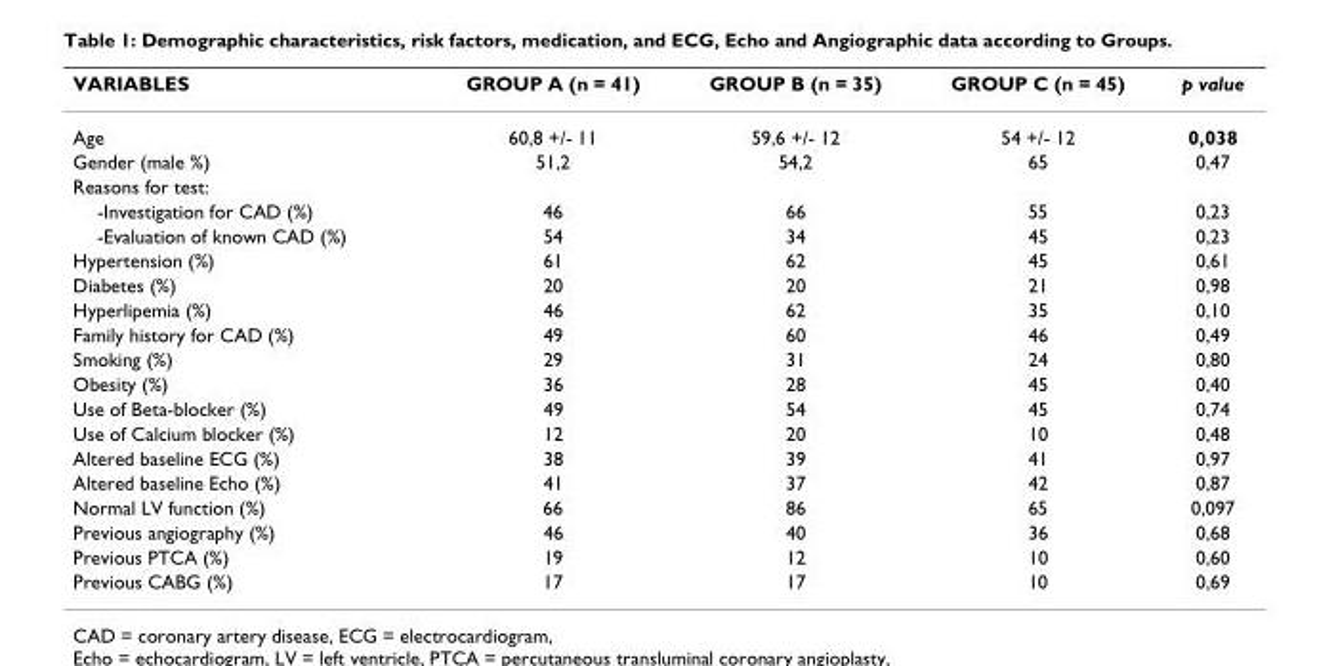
<table><thead><tr><td>VARIABLES</td><td>GROUP A (n = 41)</td><td>GROUP B (n = 35)</td><td>GROUP C (n = 45)</td><td>p value</td></tr></thead><tbody><tr><td>Age</td><td>60,8 +/- 11</td><td>59,6 +/- 12</td><td>54 +/- 12</td><td>0,038</td></tr><tr><td>Gender (male %)</td><td>51,2</td><td>54,2</td><td>65</td><td>0,47</td></tr><tr><td colspan="5">Reasons for test:</td></tr><tr><td>-Investigation for CAD (%)</td><td>46</td><td>66</td><td>55</td><td>0,23</td></tr><tr><td>-Evaluation of known CAD (%)</td><td>54</td><td>34</td><td>45</td><td>0,23</td></tr><tr><td>Hypertension (%)</td><td>61</td><td>62</td><td>45</td><td>0,61</td></tr><tr><td>Diabetes (%)</td><td>20</td><td>20</td><td>21</td><td>0,98</td></tr><tr><td>Hyperlipemia (%)</td><td>46</td><td>62</td><td>35</td><td>0,10</td></tr><tr><td>Family history for CAD (%)</td><td>49</td><td>60</td><td>46</td><td>0,49</td></tr><tr><td>Smoking (%)</td><td>29</td><td>31</td><td>24</td><td>0,80</td></tr><tr><td>Obesity (%)</td><td>36</td><td>28</td><td>45</td><td>0,40</td></tr><tr><td>Use of Beta-blocker (%)</td><td>49</td><td>54</td><td>45</td><td>0,74</td></tr><tr><td>Use of Calcium blocker (%)</td><td>12</td><td>20</td><td>10</td><td>0,48</td></tr><tr><td>Altered baseline ECG (%)</td><td>38</td><td>39</td><td>41</td><td>0,97</td></tr><tr><td>Altered baseline Echo (%)</td><td>41</td><td>37</td><td>42</td><td>0,87</td></tr><tr><td>Normal LV function (%)</td><td>66</td><td>86</td><td>65</td><td>0,097</td></tr><tr><td>Previous angiography (%)</td><td>46</td><td>40</td><td>36</td><td>0,68</td></tr><tr><td>Previous PTCA (%)</td><td>19</td><td>12</td><td>10</td><td>0,60</td></tr><tr><td>Previous CABG (%)</td><td>17</td><td>17</td><td>10</td><td>0,69</td></tr></tbody></table>